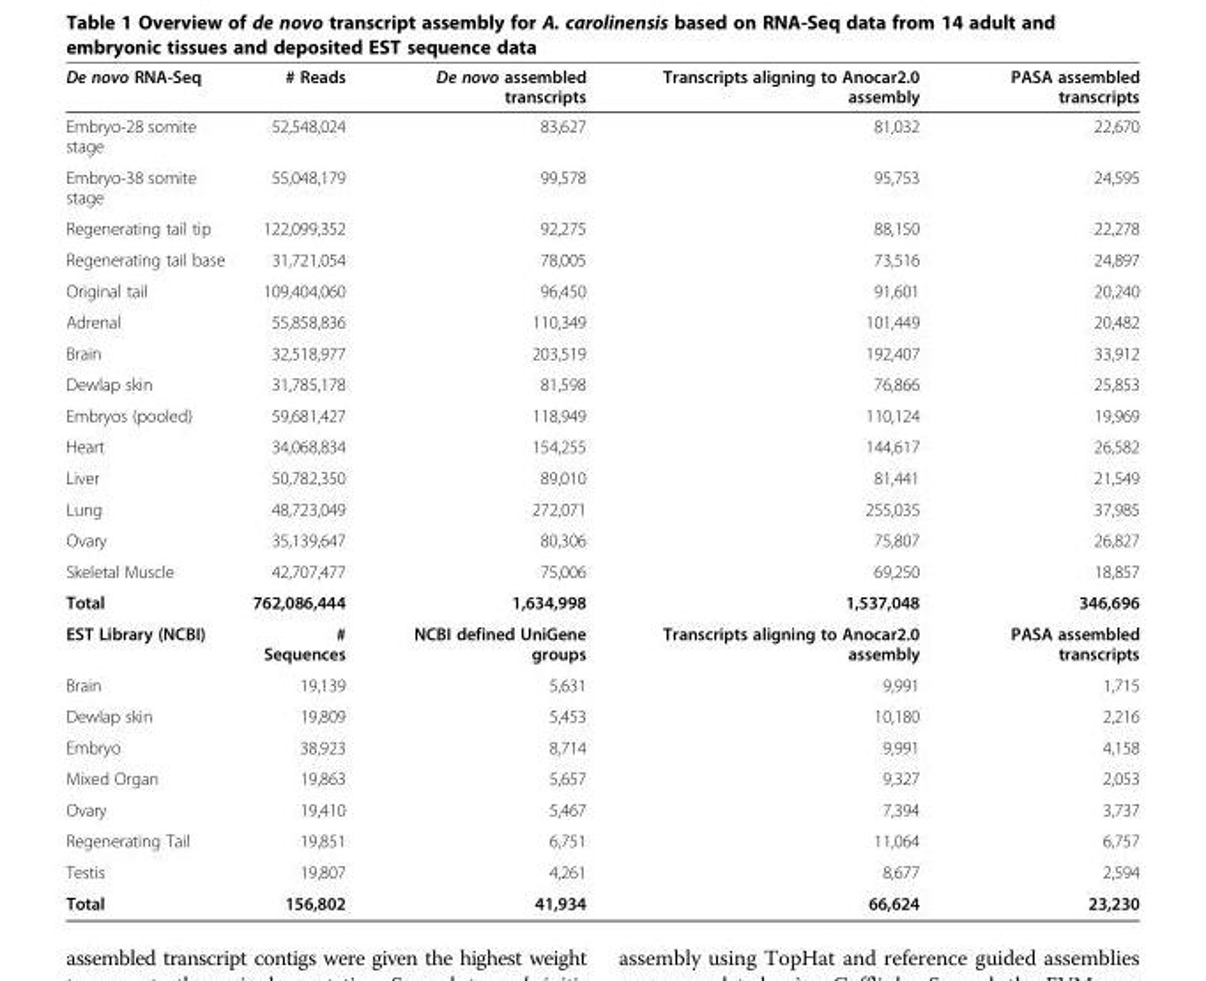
<table><thead><tr><td>De novo RNA-Seq</td><td># Reads</td><td>De novo assembled transcripts</td><td>Transcripts aligning to Anocar2.0 assembly</td><td>PASA assembled transcripts</td></tr></thead><tbody><tr><td>Embryo-28 somite stage</td><td>52,548,024</td><td>83,627</td><td>81,032</td><td>22,670</td></tr><tr><td>Embryo-38 somite stage</td><td>55,048,179</td><td>99,578</td><td>95,753</td><td>24,595</td></tr><tr><td>Regenerating tail tip</td><td>122,099,352</td><td>92,275</td><td>88,150</td><td>22,278</td></tr><tr><td>Regenerating tail base</td><td>31,721,054</td><td>78,005</td><td>73,516</td><td>24,897</td></tr><tr><td>Original tail</td><td>109,404,060</td><td>96,450</td><td>91,601</td><td>20,240</td></tr><tr><td>Adrenal</td><td>55,858,836</td><td>110,349</td><td>101,449</td><td>20,482</td></tr><tr><td>Brain</td><td>32,518,977</td><td>203,519</td><td>192,407</td><td>33,912</td></tr><tr><td>Dewlap skin</td><td>31,785,178</td><td>81,598</td><td>76,866</td><td>25,853</td></tr><tr><td>Embryos (pooled)</td><td>59,681,427</td><td>118,949</td><td>110,124</td><td>19,969</td></tr><tr><td>Heart</td><td>34,068,834</td><td>154,255</td><td>144,617</td><td>26,582</td></tr><tr><td>Liver</td><td>50,782,350</td><td>89,010</td><td>81,441</td><td>21,549</td></tr><tr><td>Lung</td><td>48,723,049</td><td>272,071</td><td>255,035</td><td>37,985</td></tr><tr><td>Ovary</td><td>35,139,647</td><td>80,306</td><td>75,807</td><td>26,827</td></tr><tr><td>Skeletal Muscle</td><td>42,707,477</td><td>75,006</td><td>69,250</td><td>18,857</td></tr><tr><td>Total</td><td>762,086,444</td><td>1,634,998</td><td>1,537,048</td><td>346,696</td></tr><tr><td>EST Library (NCBI)</td><td># Sequences</td><td>NCBI defined UniGene groups</td><td>Transcripts aligning to Anocar2.0 assembly</td><td>PASA assembled transcripts</td></tr><tr><td>Brain</td><td>19,139</td><td>5,631</td><td>9,991</td><td>1,715</td></tr><tr><td>Dewlap skin</td><td>19,809</td><td>5,453</td><td>10,180</td><td>2,216</td></tr><tr><td>Embryo</td><td>38,923</td><td>8,714</td><td>9,991</td><td>4,158</td></tr><tr><td>Mixed Organ</td><td>19,863</td><td>5,657</td><td>9,327</td><td>2,053</td></tr><tr><td>Ovary</td><td>19,410</td><td>5,467</td><td>7,394</td><td>3,737</td></tr><tr><td>Regenerating Tail</td><td>19,851</td><td>6,751</td><td>11,064</td><td>6,757</td></tr><tr><td>Testis</td><td>19,807</td><td>4,261</td><td>8,677</td><td>2,594</td></tr><tr><td>Total</td><td>156,802</td><td>41,934</td><td>66,624</td><td>23,230</td></tr></tbody></table>